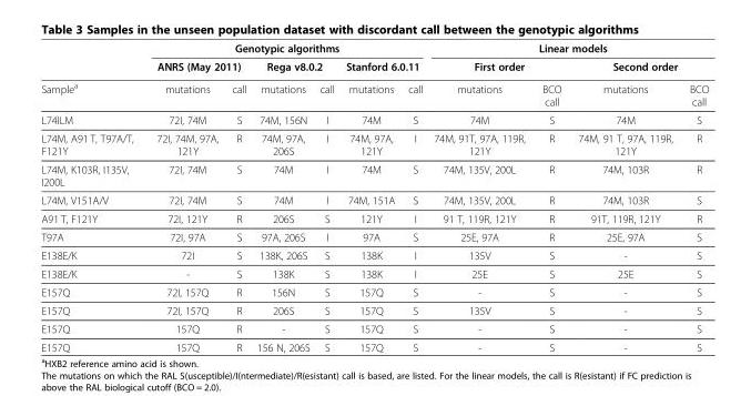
<table><thead><tr><td rowspan="3">Sample<sup>a</sup></td><td colspan="6">Genotypic algorithms</td><td colspan="4">Linear models</td></tr><tr><td colspan="2">ANRS (May 2011)</td><td colspan="2">Rega v8.0.2</td><td colspan="2">Stanford 6.0.11</td><td colspan="2">First order</td><td colspan="2">Second order</td></tr><tr><td>mutations</td><td>call</td><td>mutations</td><td>call</td><td>mutations</td><td>call</td><td>mutations</td><td>BCO call</td><td>mutations</td><td>BCO call</td></tr></thead><tbody><tr><td>L74ILM</td><td>72I, 74M</td><td>S</td><td>74M, 156N</td><td>I</td><td>74M</td><td>S</td><td>74M</td><td>S</td><td>74M</td><td>S</td></tr><tr><td>L74M, A91 T, T97A/T, F121Y</td><td>72I, 74M, 97A, 121Y</td><td>R</td><td>74M, 97A, 206S</td><td>I</td><td>74M, 97A, 121Y</td><td>I</td><td>74M, 91T, 97A, 119R, 121Y</td><td>R</td><td>74M, 91 T, 97A, 119R, 121Y</td><td>R</td></tr><tr><td>L74M, K103R, I135V, I200L</td><td>72I, 74M</td><td>S</td><td>74M</td><td>I</td><td>74M</td><td>S</td><td>74M, 135V, 200L</td><td>R</td><td>74M, 103R</td><td>R</td></tr><tr><td>L74M, V151A/V</td><td>72I, 74M</td><td>S</td><td>74M</td><td>I</td><td>74M, 151A</td><td>S</td><td>74M, 135V, 200L</td><td>R</td><td>74M, 103R</td><td>S</td></tr><tr><td>A91 T, F121Y</td><td>72I, 121Y</td><td>R</td><td>206S</td><td>S</td><td>121Y</td><td>I</td><td>91 T, 119R, 121Y</td><td>R</td><td>91T, 119R, 121Y</td><td>R</td></tr><tr><td>T97A</td><td>72I, 97A</td><td>S</td><td>97A, 206S</td><td>I</td><td>97A</td><td>S</td><td>25E, 97A</td><td>R</td><td>25E, 97A</td><td>S</td></tr><tr><td>E138E/K</td><td>72I</td><td>S</td><td>138K, 206S</td><td>S</td><td>138K</td><td>I</td><td>135V</td><td>S</td><td>-</td><td>S</td></tr><tr><td>E138E/K</td><td>-</td><td>S</td><td>138K</td><td>S</td><td>138K</td><td>I</td><td>25E</td><td>S</td><td>25E</td><td>S</td></tr><tr><td>E157Q</td><td>72I, 157Q</td><td>R</td><td>156N</td><td>S</td><td>157Q</td><td>S</td><td>-</td><td>S</td><td>-</td><td>S</td></tr><tr><td>E157Q</td><td>72I, 157Q</td><td>R</td><td>206S</td><td>S</td><td>157Q</td><td>S</td><td>135V</td><td>S</td><td>-</td><td>S</td></tr><tr><td>E157Q</td><td>157Q</td><td>R</td><td>-</td><td>S</td><td>157Q</td><td>S</td><td>-</td><td>S</td><td>-</td><td>S</td></tr><tr><td>E157Q</td><td>157Q</td><td>R</td><td>156 N, 206S</td><td>S</td><td>157Q</td><td>S</td><td>-</td><td>S</td><td>-</td><td>S</td></tr></tbody></table>